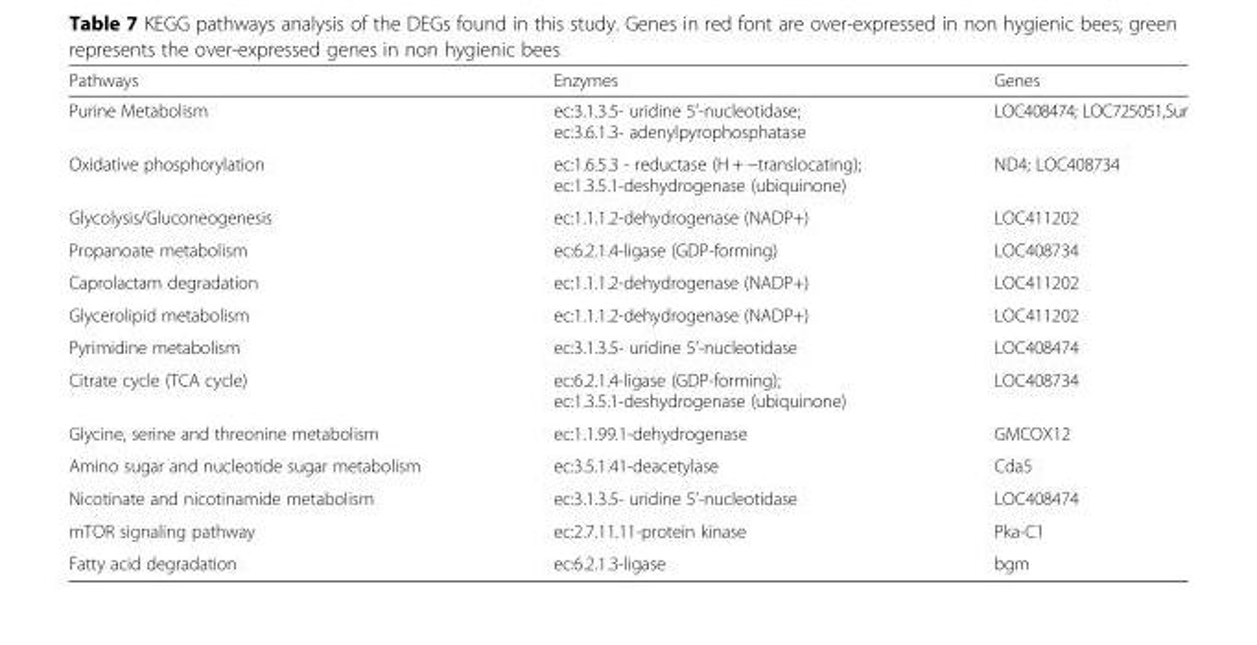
<table><thead><tr><td>Pathways</td><td>Enzymes</td><td>Genes</td></tr></thead><tbody><tr><td>Purine Metabolism</td><td>ec:3.1.3.5- uridine 5’-nucleotidase; ec:3.6.1.3- adenylpyrophosphatase</td><td>LOC408474; LOC725051,Sur</td></tr><tr><td>Oxidative phosphorylation</td><td>ec:1.6.5.3 - reductase (H + −translocating); ec:1.3.5.1-deshydrogenase (ubiquinone)</td><td>ND4; LOC408734</td></tr><tr><td>Glycolysis/Gluconeogenesis</td><td>ec:1.1.1.2-dehydrogenase (NADP+)</td><td>LOC411202</td></tr><tr><td>Propanoate metabolism</td><td>ec:6.2.1.4-ligase (GDP-forming)</td><td>LOC408734</td></tr><tr><td>Caprolactam degradation</td><td>ec:1.1.1.2-dehydrogenase (NADP+)</td><td>LOC411202</td></tr><tr><td>Glycerolipid metabolism</td><td>ec:1.1.1.2-dehydrogenase (NADP+)</td><td>LOC411202</td></tr><tr><td>Pyrimidine metabolism</td><td>ec:3.1.3.5- uridine 5’-nucleotidase</td><td>LOC408474</td></tr><tr><td>Citrate cycle (TCA cycle)</td><td>ec:6.2.1.4-ligase (GDP-forming); ec:1.3.5.1-deshydrogenase (ubiquinone)</td><td>LOC408734</td></tr><tr><td>Glycine, serine and threonine metabolism</td><td>ec:1.1.99.1-dehydrogenase</td><td>GMCOX12</td></tr><tr><td>Amino sugar and nucleotide sugar metabolism</td><td>ec:3.5.1.41-deacetylase</td><td>Cda5</td></tr><tr><td>Nicotinate and nicotinamide metabolism</td><td>ec:3.1.3.5- uridine 5’-nucleotidase</td><td>LOC408474</td></tr><tr><td>mTOR signaling pathway</td><td>ec:2.7.11.11-protein kinase</td><td>Pka-C1</td></tr><tr><td>Fatty acid degradation</td><td>ec:6.2.1.3-ligase</td><td>bgm</td></tr></tbody></table>